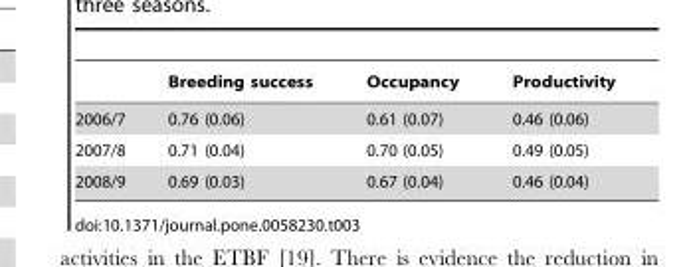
<table><thead><tr><td></td><td>Breeding success</td><td>Occupancy</td><td>Productivity</td></tr></thead><tbody><tr><td>2006/7</td><td>0.76 (0.06)</td><td>0.61 (0.07)</td><td>0.46 (0.06)</td></tr><tr><td>2007/8</td><td>0.71 (0.04)</td><td>0.70 (0.05)</td><td>0.49 (0.05)</td></tr><tr><td>2008/9</td><td>0.69 (0.03)</td><td>0.67 (0.04)</td><td>0.46 (0.04)</td></tr></tbody></table>